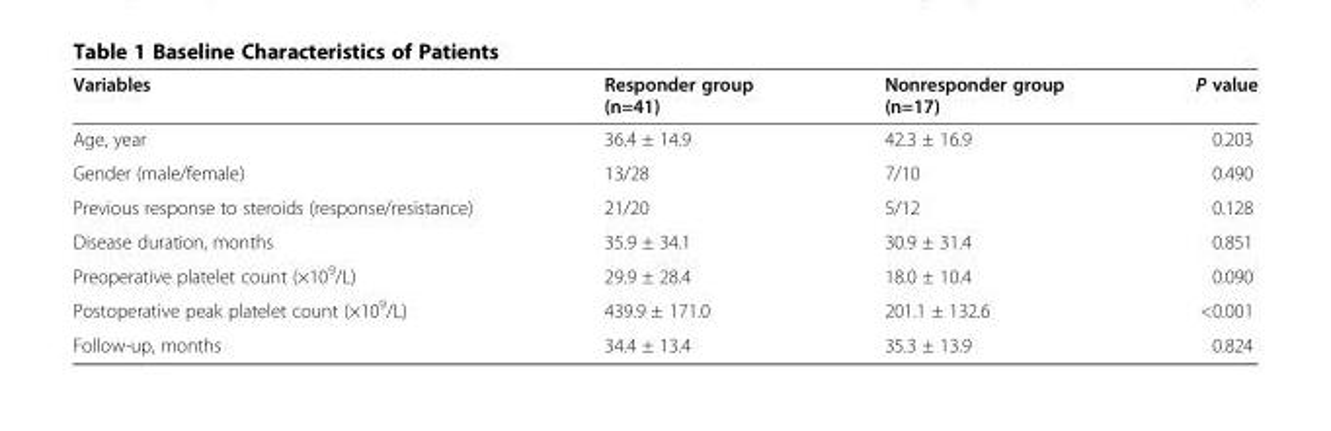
<table><thead><tr><td>Variables</td><td>Responder group (n=41)</td><td>Nonresponder group (n=17)</td><td>P value</td></tr></thead><tbody><tr><td>Age, year</td><td>36.4 ± 14.9</td><td>42.3 ± 16.9</td><td>0.203</td></tr><tr><td>Gender (male/female)</td><td>13/28</td><td>7/10</td><td>0.490</td></tr><tr><td>Previous response to steroids (response/resistance)</td><td>21/20</td><td>5/12</td><td>0.128</td></tr><tr><td>Disease duration, months</td><td>35.9 ± 34.1</td><td>30.9 ± 31.4</td><td>0.851</td></tr><tr><td>Preoperative platelet count (×10<sup>9</sup>/L)</td><td>29.9 ± 28.4</td><td>18.0 ± 10.4</td><td>0.090</td></tr><tr><td>Postoperative peak platelet count (×10<sup>9</sup>/L)</td><td>439.9 ± 171.0</td><td>201.1 ± 132.6</td><td>&lt;0.001</td></tr><tr><td>Follow-up, months</td><td>34.4 ± 13.4</td><td>35.3 ± 13.9</td><td>0.824</td></tr></tbody></table>